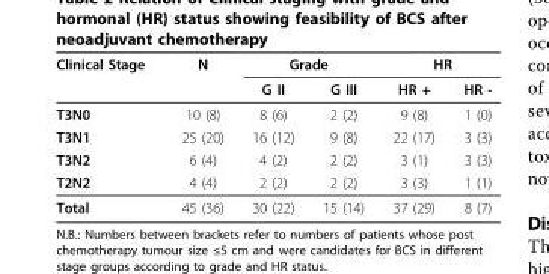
<table><thead><tr><td rowspan="2">Clinical Stage</td><td rowspan="2">N</td><td colspan="2">Grade</td><td colspan="2">HR</td></tr><tr><td>G II</td><td>G III</td><td>HR +</td><td>HR -</td></tr></thead><tbody><tr><td>T3N0</td><td>10 (8)</td><td>8 (6)</td><td>2 (2)</td><td>9 (8)</td><td>1 (0)</td></tr><tr><td>T3N1</td><td>25 (20)</td><td>16 (12)</td><td>9 (8)</td><td>22 (17)</td><td>3 (3)</td></tr><tr><td>T3N2</td><td>6 (4)</td><td>4 (2)</td><td>2 (2)</td><td>3 (1)</td><td>3 (3)</td></tr><tr><td>T2N2</td><td>4 (4)</td><td>2 (2)</td><td>2 (2)</td><td>3 (3)</td><td>1 (1)</td></tr><tr><td>Total</td><td>45 (36)</td><td>30 (22)</td><td>15 (14)</td><td>37 (29)</td><td>8 (7)</td></tr></tbody></table>